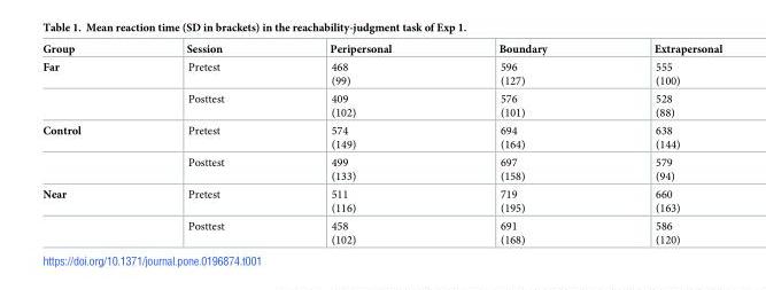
<table><thead><tr><td>Group</td><td>Session</td><td>Peripersonal</td><td>Boundary</td><td>Extrapersonal</td></tr></thead><tbody><tr><td rowspan="2">Far</td><td>Pretest</td><td>468 (99)</td><td>596 (127)</td><td>555 (100)</td></tr><tr><td>Posttest</td><td>409 (102)</td><td>576 (101)</td><td>528 (88)</td></tr><tr><td rowspan="2">Control</td><td>Pretest</td><td>574 (149)</td><td>694 (164)</td><td>638 (144)</td></tr><tr><td>Posttest</td><td>499 (133)</td><td>697 (158)</td><td>579 (94)</td></tr><tr><td rowspan="2">Near</td><td>Pretest</td><td>511 (116)</td><td>719 (195)</td><td>660 (163)</td></tr><tr><td>Posttest</td><td>458 (102)</td><td>691 (168)</td><td>586 (120)</td></tr></tbody></table>